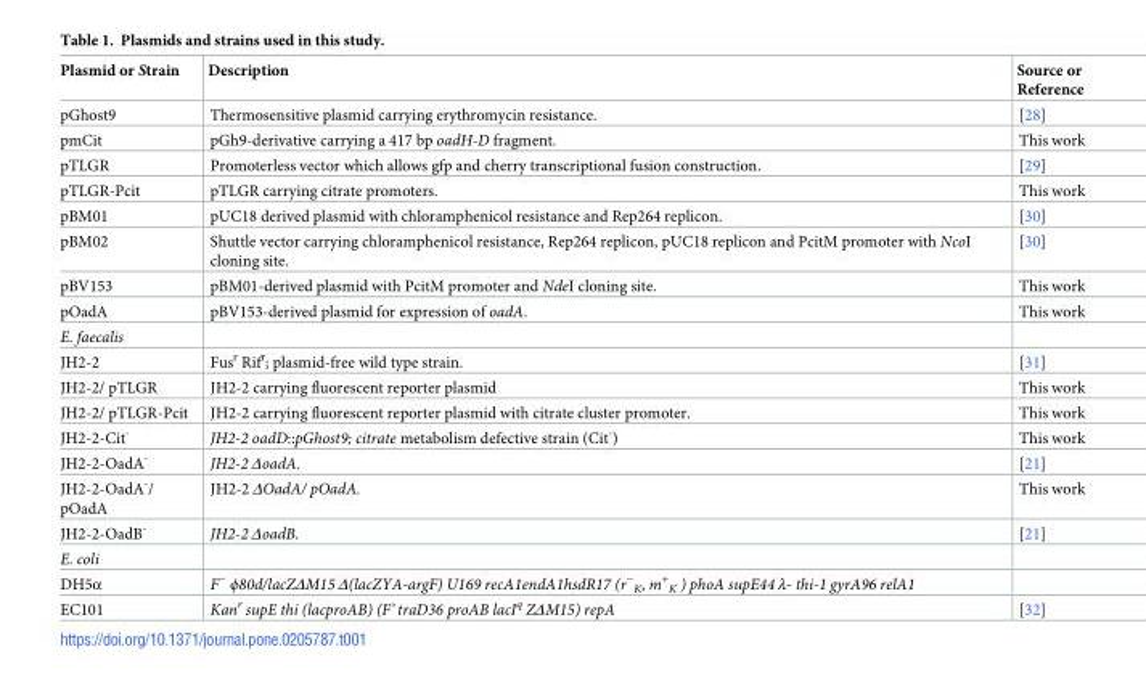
<table><thead><tr><td>Plasmid or Strain</td><td>Description</td><td>Source or Reference</td></tr></thead><tbody><tr><td>pGhost9</td><td>Thermosensitive plasmid carrying erythromycin resistance.</td><td>[28]</td></tr><tr><td>pmCit</td><td>pGh9-derivative carrying a 417 bp oadH-D fragment.</td><td>This work</td></tr><tr><td>pTLGR</td><td>Promoterless vector which allows gfp and cherry transcriptional fusion construction.</td><td>[29]</td></tr><tr><td>pTLGR-Pcit</td><td>pTLGR carrying citrate promoters.</td><td>This work</td></tr><tr><td>pBM01</td><td>pUC18 derived plasmid with chloramphenicol resistance and Rep264 replicon.</td><td>[30]</td></tr><tr><td>pBM02</td><td>Shuttle vector carrying chloramphenicol resistance, Rep264 replicon, pUC18 replicon and PcitM promoter with NcoI cloning site.</td><td>[30]</td></tr><tr><td>pBV153</td><td>pBM01-derived plasmid with PcitM promoter and NdeI cloning site.</td><td>This work</td></tr><tr><td>pOadA</td><td>pBV153-derived plasmid for expression of oadA.</td><td>This work</td></tr><tr><td colspan="3">E. faecalis</td></tr><tr><td>JH2-2</td><td>Fus<sup>r</sup> Rif<sup>r</sup>; plasmid-free wild type strain.</td><td>[31]</td></tr><tr><td>JH2-2/ pTLGR</td><td>JH2-2 carrying fluorescent reporter plasmid</td><td>This work</td></tr><tr><td>JH2-2/ pTLGR-Pcit</td><td>JH2-2 carrying fluorescent reporter plasmid with citrate cluster promoter.</td><td>This work</td></tr><tr><td>JH2-2-Cit<sup>-</sup></td><td>JH2-2 oadD::pGhost9; citrate metabolism defective strain (Cit<sup>-</sup>)</td><td>This work</td></tr><tr><td>JH2-2-OadA<sup>-</sup></td><td>JH2-2 ΔoadA.</td><td>[21]</td></tr><tr><td>JH2-2-OadA<sup>-</sup>/ pOadA</td><td>JH2-2 ΔOadA/ pOadA.</td><td>This work</td></tr><tr><td>JH2-2-OadB<sup>-</sup></td><td>JH2-2 ΔoadB.</td><td>[21]</td></tr><tr><td colspan="3">E. coli</td></tr><tr><td>DH5α</td><td>F<sup>−</sup> ϕ80d/lacZΔM15 Δ(lacZYA-argF) U169 recA1endA1hsdR17 (r<sup>−</sup> <sub>K</sub>, m<sup>+</sup> <sub>K</sub> ) phoA supE44 λ- thi-1 gyrA96 relA1</td><td></td></tr><tr><td>EC101</td><td>Kan<sup>r</sup> supE thi (lacproAB) (F’ traD36 proAB lacI<sup>q</sup> ZΔM15) repA</td><td>[32]</td></tr></tbody></table>